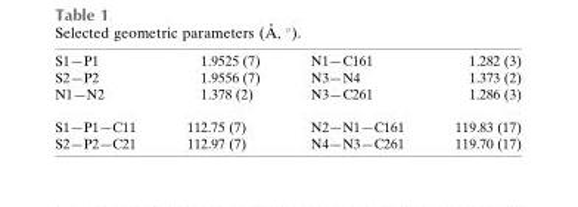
<table><tbody><tr><td>S1—P1</td><td>1.9525 (7)</td><td>N1—C161</td><td>1.282 (3)</td></tr><tr><td>S2—P2</td><td>1.9556 (7)</td><td>N3—N4</td><td>1.373 (2)</td></tr><tr><td>N1—N2</td><td>1.378 (2)</td><td>N3—C261</td><td>1.286 (3)</td></tr><tr><td>S1—P1—C11</td><td>112.75 (7)</td><td>N2—N1—C161</td><td>119.83 (17)</td></tr><tr><td>S2—P2—C21</td><td>112.97 (7)</td><td>N4—N3—C261</td><td>119.70 (17)</td></tr></tbody></table>